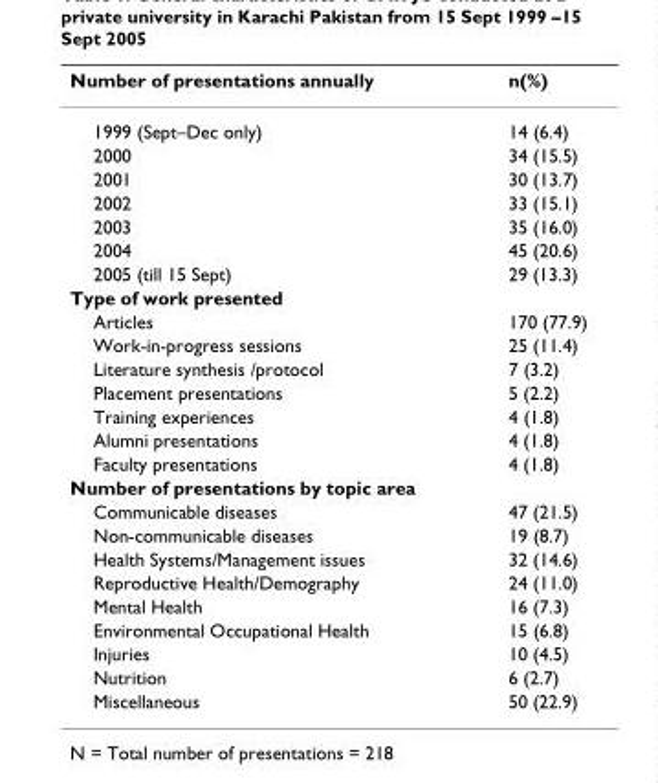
<table><thead><tr><td>Number of presentations annually</td><td>n(%)</td></tr></thead><tbody><tr><td>1999 (Sept–Dec only)</td><td>14 (6.4)</td></tr><tr><td>2000</td><td>34 (15.5)</td></tr><tr><td>2001</td><td>30 (13.7)</td></tr><tr><td>2002</td><td>33 (15.1)</td></tr><tr><td>2003</td><td>35 (16.0)</td></tr><tr><td>2004</td><td>45 (20.6)</td></tr><tr><td>2005 (till 15 Sept)</td><td>29 (13.3)</td></tr><tr><td colspan="2">Type of work presented</td></tr><tr><td>Articles</td><td>170 (77.9)</td></tr><tr><td>Work-in-progress sessions</td><td>25 (11.4)</td></tr><tr><td>Literature synthesis /protocol</td><td>7 (3.2)</td></tr><tr><td>Placement presentations</td><td>5 (2.2)</td></tr><tr><td>Training experiences</td><td>4 (1.8)</td></tr><tr><td>Alumni presentations</td><td>4 (1.8)</td></tr><tr><td>Faculty presentations</td><td>4 (1.8)</td></tr><tr><td colspan="2">Number of presentations by topic area</td></tr><tr><td>Communicable diseases</td><td>47 (21.5)</td></tr><tr><td>Non-communicable diseases</td><td>19 (8.7)</td></tr><tr><td>Health Systems/Management issues</td><td>32 (14.6)</td></tr><tr><td>Reproductive Health/Demography</td><td>24 (11.0)</td></tr><tr><td>Mental Health</td><td>16 (7.3)</td></tr><tr><td>Environmental Occupational Health</td><td>15 (6.8)</td></tr><tr><td>Injuries</td><td>10 (4.5)</td></tr><tr><td>Nutrition</td><td>6 (2.7)</td></tr><tr><td>Miscellaneous</td><td>50 (22.9)</td></tr></tbody></table>